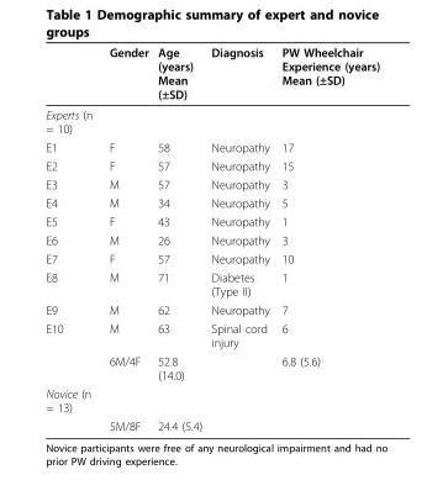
<table><thead><tr><td></td><td>Gender</td><td>Age (years) Mean (±SD)</td><td>Diagnosis</td><td>PW Wheelchair Experience (years) Mean (±SD)</td></tr></thead><tbody><tr><td colspan="5">Experts (n = 10)</td></tr><tr><td>E1</td><td>F</td><td>58</td><td>Neuropathy</td><td>17</td></tr><tr><td>E2</td><td>F</td><td>57</td><td>Neuropathy</td><td>15</td></tr><tr><td>E3</td><td>M</td><td>57</td><td>Neuropathy</td><td>3</td></tr><tr><td>E4</td><td>M</td><td>34</td><td>Neuropathy</td><td>5</td></tr><tr><td>E5</td><td>F</td><td>43</td><td>Neuropathy</td><td>1</td></tr><tr><td>E6</td><td>M</td><td>26</td><td>Neuropathy</td><td>3</td></tr><tr><td>E7</td><td>F</td><td>57</td><td>Neuropathy</td><td>10</td></tr><tr><td>E8</td><td>M</td><td>71</td><td>Diabetes (Type II)</td><td>1</td></tr><tr><td>E9</td><td>M</td><td>62</td><td>Neuropathy</td><td>7</td></tr><tr><td rowspan="2">E10</td><td>M</td><td>63</td><td>Spinal cord injury</td><td>6</td></tr><tr><td>6M/4F</td><td>52.8 (14.0)</td><td></td><td>6.8 (5.6)</td></tr><tr><td colspan="5">Novice (n = 13)</td></tr><tr><td></td><td>5M/8F</td><td>24.4 (5.4)</td><td></td><td></td></tr></tbody></table>